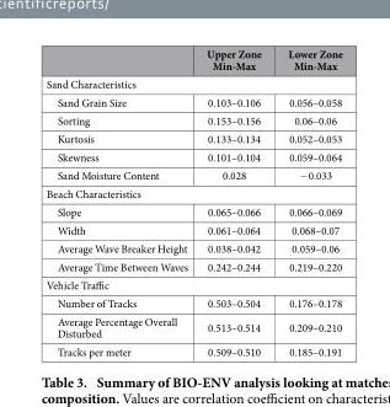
<table><thead><tr><td></td><td>Upper Zone Min-Max</td><td>Lower Zone Min-Max</td></tr></thead><tbody><tr><td colspan="3">Sand Characteristics</td></tr><tr><td>Sand Grain Size</td><td>0.103–0.106</td><td>0.056–0.058</td></tr><tr><td>Sorting</td><td>0.153–0.156</td><td>0.06–0.06</td></tr><tr><td>Kurtosis</td><td>0.133–0.134</td><td>0.052–0.053</td></tr><tr><td>Skewness</td><td>0.101–0.104</td><td>0.059–0.064</td></tr><tr><td>Sand Moisture Content</td><td>0.028</td><td>− 0.033</td></tr><tr><td colspan="3">Beach Characteristics</td></tr><tr><td>Slope</td><td>0.065–0.066</td><td>0.066–0.069</td></tr><tr><td>Width</td><td>0.061–0.064</td><td>0.068–0.07</td></tr><tr><td>Average Wave Breaker Height</td><td>0.038–0.042</td><td>0.059–0.06</td></tr><tr><td>Average Time Between Waves</td><td>0.242–0.244</td><td>0.219–0.220</td></tr><tr><td colspan="3">Vehicle Traffic</td></tr><tr><td>Number of Tracks</td><td>0.503–0.504</td><td>0.176–0.178</td></tr><tr><td>Average Percentage Overall Disturbed</td><td>0.513–0.514</td><td>0.209–0.210</td></tr><tr><td>Tracks per meter</td><td>0.509–0.510</td><td>0.185–0.191</td></tr></tbody></table>